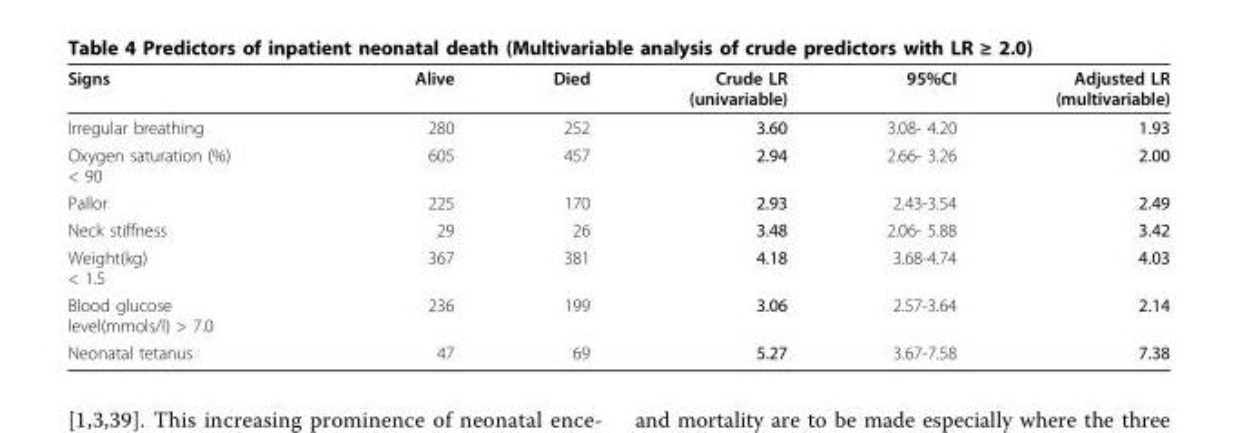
<table><thead><tr><td>Signs</td><td>Alive</td><td>Died</td><td>Crude LR (univariable)</td><td>95%CI</td><td>Adjusted LR (multivariable)</td></tr></thead><tbody><tr><td>Irregular breathing</td><td>280</td><td>252</td><td>3.60</td><td>3.08- 4.20</td><td>1.93</td></tr><tr><td>Oxygen saturation (%) &lt; 90</td><td>605</td><td>457</td><td>2.94</td><td>2.66- 3.26</td><td>2.00</td></tr><tr><td>Pallor</td><td>225</td><td>170</td><td>2.93</td><td>2.43-3.54</td><td>2.49</td></tr><tr><td>Neck stiffness</td><td>29</td><td>26</td><td>3.48</td><td>2.06- 5.88</td><td>3.42</td></tr><tr><td>Weight(kg) &lt; 1.5</td><td>367</td><td>381</td><td>4.18</td><td>3.68-4.74</td><td>4.03</td></tr><tr><td>Blood glucose level(mmols/l) &gt; 7.0</td><td>236</td><td>199</td><td>3.06</td><td>2.57-3.64</td><td>2.14</td></tr><tr><td>Neonatal tetanus</td><td>47</td><td>69</td><td>5.27</td><td>3.67-7.58</td><td>7.38</td></tr></tbody></table>